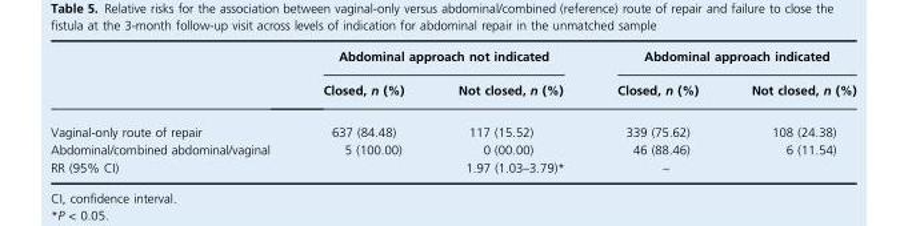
<table><thead><tr><td rowspan="2"></td><td colspan="2">Abdominal approach not indicated</td><td colspan="2">Abdominal approach indicated</td></tr><tr><td>Closed, n (%)</td><td>Not closed, n (%)</td><td>Closed, n (%)</td><td>Not closed, n (%)</td></tr></thead><tbody><tr><td>Vaginal-only route of repair</td><td>637 (84.48)</td><td>117 (15.52)</td><td>339 (75.62)</td><td>108 (24.38)</td></tr><tr><td>Abdominal/combined abdominal/vaginal</td><td>5 (100.00)</td><td>0 (00.00)</td><td>46 (88.46)</td><td>6 (11.54)</td></tr><tr><td>RR (95% CI)</td><td></td><td>1.97 (1.03–3.79)*</td><td>–</td><td></td></tr></tbody></table>